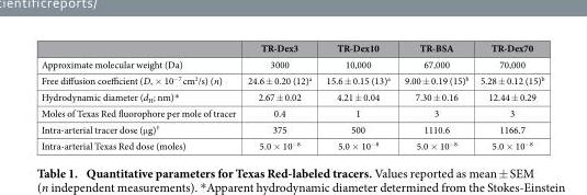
<table><thead><tr><td></td><td>TR-Dex3</td><td>TR-Dex10</td><td>TR-BSA</td><td>TR-Dex70</td></tr></thead><tbody><tr><td>Approximate molecular weight (Da)</td><td>3000</td><td>10,000</td><td>67,000</td><td>70,000</td></tr><tr><td>Free diffusion coefficient (D, × 10<sup>−7</sup> cm<sup>2</sup>/s) (n)</td><td>24.6 ± 0.20 (12)<sup>a</sup></td><td>15.6 ± 0.15 (13)<sup>a</sup></td><td>9.00 ± 0.19 (15)<sup>b</sup></td><td>5.28 ± 0.12 (15)<sup>b</sup></td></tr><tr><td>Hydrodynamic diameter (d<sub>H</sub>; nm)*</td><td>2.67 ± 0.02</td><td>4.21 ± 0.04</td><td>7.30 ± 0.16</td><td>12.44 ± 0.29</td></tr><tr><td>Moles of Texas Red fluorophore per mole of tracer</td><td>0.4</td><td>1</td><td>3</td><td>3</td></tr><tr><td>Intra-arterial tracer dose (μ g)†</td><td>375</td><td>500</td><td>1110.6</td><td>1166.7</td></tr><tr><td>Intra-arterial Texas Red dose (moles)</td><td>5.0 × 10<sup>−8</sup></td><td>5.0 × 10<sup>−8</sup></td><td>5.0 × 10<sup>−8</sup></td><td>5.0 × 10<sup>−8</sup></td></tr></tbody></table>